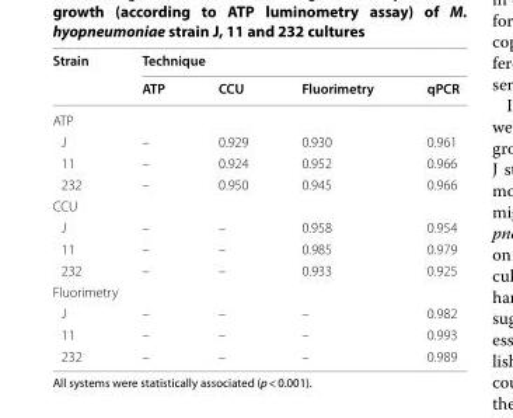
<table><thead><tr><td rowspan="2">Strain</td><td colspan="4">Technique</td></tr><tr><td>ATP</td><td>CCU</td><td>Fluorimetry</td><td>qPCR</td></tr></thead><tbody><tr><td colspan="5">ATP</td></tr><tr><td>J</td><td>–</td><td>0.929</td><td>0.930</td><td>0.961</td></tr><tr><td>11</td><td>–</td><td>0.924</td><td>0.952</td><td>0.966</td></tr><tr><td>232</td><td>–</td><td>0.950</td><td>0.945</td><td>0.966</td></tr><tr><td colspan="5">CCU</td></tr><tr><td>J</td><td>–</td><td>–</td><td>0.958</td><td>0.954</td></tr><tr><td>11</td><td>–</td><td>–</td><td>0.985</td><td>0.979</td></tr><tr><td>232</td><td>–</td><td>–</td><td>0.933</td><td>0.925</td></tr><tr><td colspan="5">Fluorimetry</td></tr><tr><td>J</td><td>–</td><td>–</td><td>–</td><td>0.982</td></tr><tr><td>11</td><td>–</td><td>–</td><td>–</td><td>0.993</td></tr><tr><td>232</td><td>–</td><td>–</td><td>–</td><td>0.989</td></tr></tbody></table>